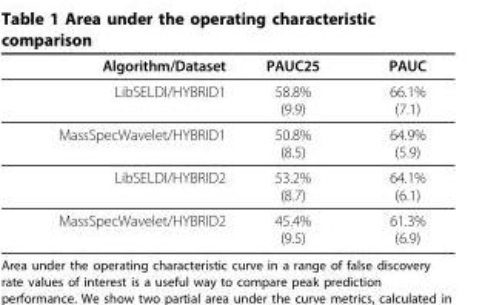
<table><thead><tr><td>Algorithm/Dataset</td><td>PAUC25</td><td>PAUC</td></tr></thead><tbody><tr><td>LibSELDI/HYBRID1</td><td>58.8% (9.9)</td><td>66.1% (7.1)</td></tr><tr><td>MassSpecWavelet/HYBRID1</td><td>50.8% (8.5)</td><td>64.9% (5.9)</td></tr><tr><td>LibSELDI/HYBRID2</td><td>53.2% (8.7)</td><td>64.1% (6.1)</td></tr><tr><td>MassSpecWavelet/HYBRID2</td><td>45.4% (9.5)</td><td>61.3% (6.9)</td></tr></tbody></table>